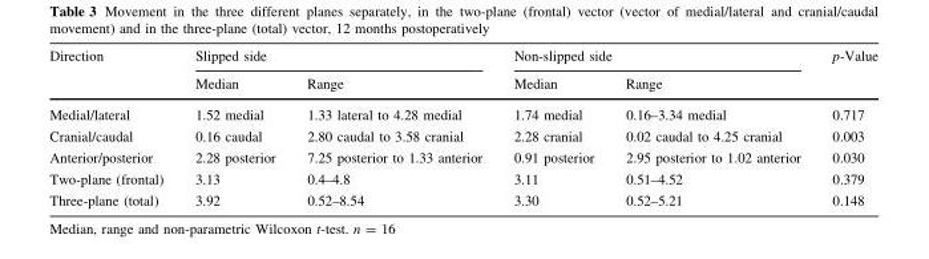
<table><thead><tr><td rowspan="2">Direction</td><td colspan="2">Slipped side</td><td colspan="2">Non-slipped side</td><td rowspan="2">p-Value</td></tr><tr><td>Median</td><td>Range</td><td>Median</td><td>Range</td></tr></thead><tbody><tr><td>Medial/lateral</td><td>1.52 medial</td><td>1.33 lateral to 4.28 medial</td><td>1.74 medial</td><td>0.16–3.34 medial</td><td>0.717</td></tr><tr><td>Cranial/caudal</td><td>0.16 caudal</td><td>2.80 caudal to 3.58 cranial</td><td>2.28 cranial</td><td>0.02 caudal to 4.25 cranial</td><td>0.003</td></tr><tr><td>Anterior/posterior</td><td>2.28 posterior</td><td>7.25 posterior to 1.33 anterior</td><td>0.91 posterior</td><td>2.95 posterior to 1.02 anterior</td><td>0.030</td></tr><tr><td>Two-plane (frontal)</td><td>3.13</td><td>0.4–4.8</td><td>3.11</td><td>0.51–4.52</td><td>0.379</td></tr><tr><td>Three-plane (total)</td><td>3.92</td><td>0.52–8.54</td><td>3.30</td><td>0.52–5.21</td><td>0.148</td></tr></tbody></table>